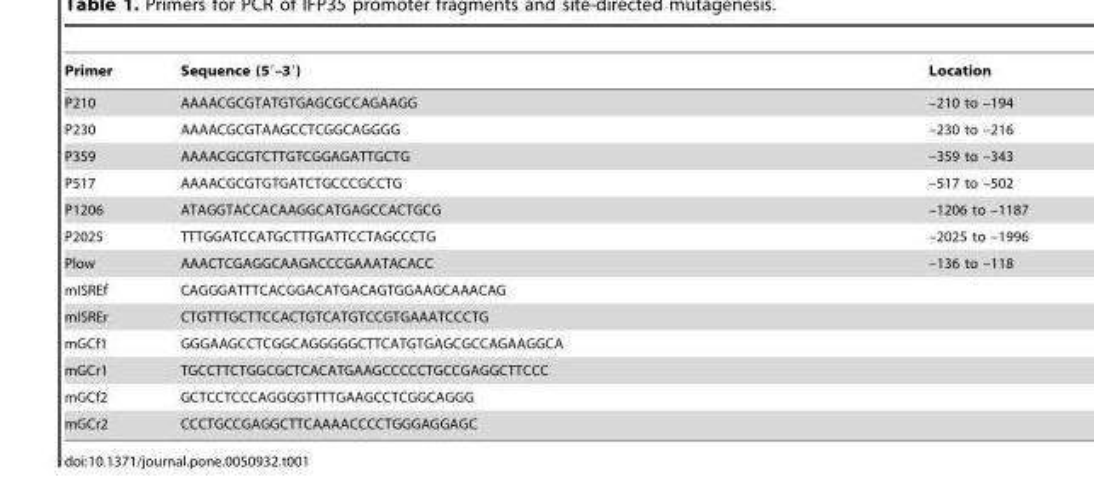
<table><thead><tr><td>Primer</td><td>Sequence (5′–3′)</td><td>Location</td></tr></thead><tbody><tr><td>P210</td><td>AAAACGCGTATGTGAGCGCCAGAAGG</td><td>–210 to –194</td></tr><tr><td>P230</td><td>AAAACGCGTAAGCCTCGGCAGGGG</td><td>–230 to –216</td></tr><tr><td>P359</td><td>AAAACGCGTCTTGTCGGAGATTGCTG</td><td>–359 to –343</td></tr><tr><td>P517</td><td>AAAACGCGTGTGATCTGCCCGCCTG</td><td>–517 to –502</td></tr><tr><td>P1206</td><td>ATAGGTACCACAAGGCATGAGCCACTGCG</td><td>–1206 to –1187</td></tr><tr><td>P2025</td><td>TTTGGATCCATGCTTTGATTCCTAGCCCTG</td><td>–2025 to –1996</td></tr><tr><td>Plow</td><td>AAACTCGAGGCAAGACCCGAAATACACC</td><td>–136 to –118</td></tr><tr><td>mISREf</td><td>CAGGGATTTCACGGACATGACAGTGGAAGCAAACAG</td><td></td></tr><tr><td>mISREr</td><td>CTGTTTGCTTCCACTGTCATGTCCGTGAAATCCCTG</td><td></td></tr><tr><td>mGCf1</td><td>GGGAAGCCTCGGCAGGGGGCTTCATGTGAGCGCCAGAAGGCA</td><td></td></tr><tr><td>mGCr1</td><td>TGCCTTCTGGCGCTCACATGAAGCCCCCTGCCGAGGCTTCCC</td><td></td></tr><tr><td>mGCf2</td><td>GCTCCTCCCAGGGGTTTTGAAGCCTCGGCAGGG</td><td></td></tr><tr><td>mGCr2</td><td>CCCTGCCGAGGCTTCAAAACCCCTGGGAGGAGC</td><td></td></tr></tbody></table>